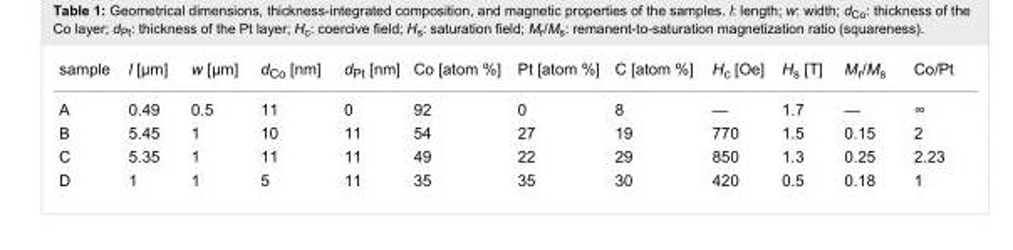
<table><tbody><tr><td>sample</td><td>l [μm]</td><td>w [μm]</td><td>d<sub>Co</sub> [nm]</td><td>d<sub>Pt</sub> [nm]</td><td>Co [atom %]</td><td>Pt [atom %]</td><td>C [atom %]</td><td>H<sub>c</sub> [Oe]</td><td>H<sub>s</sub> [T]</td><td>M<sub>r</sub>/M<sub>s</sub></td><td>Co/Pt</td></tr><tr><td>A</td><td>0.49</td><td>0.5</td><td>11</td><td>0</td><td>92</td><td>0</td><td>8</td><td>—</td><td>1.7</td><td>—</td><td>∞</td></tr><tr><td>B</td><td>5.45</td><td>1</td><td>10</td><td>11</td><td>54</td><td>27</td><td>19</td><td>770</td><td>1.5</td><td>0.15</td><td>2</td></tr><tr><td>C</td><td>5.35</td><td>1</td><td>11</td><td>11</td><td>49</td><td>22</td><td>29</td><td>850</td><td>1.3</td><td>0.25</td><td>2.23</td></tr><tr><td>D</td><td>1</td><td>1</td><td>5</td><td>11</td><td>35</td><td>35</td><td>30</td><td>420</td><td>0.5</td><td>0.18</td><td>1</td></tr></tbody></table>